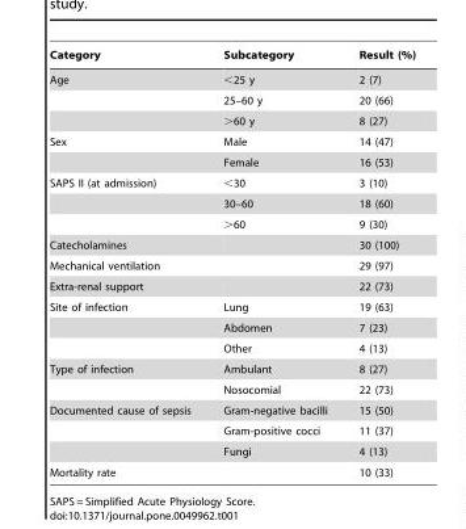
<table><thead><tr><td>Category</td><td>Subcategory</td><td>Result (%)</td></tr></thead><tbody><tr><td rowspan="3">Age</td><td>&lt;25 y</td><td>2 (7)</td></tr><tr><td>25–60 y</td><td>20 (66)</td></tr><tr><td>&gt;60 y</td><td>8 (27)</td></tr><tr><td rowspan="2">Sex</td><td>Male</td><td>14 (47)</td></tr><tr><td>Female</td><td>16 (53)</td></tr><tr><td rowspan="3">SAPS II (at admission)</td><td>&lt;30</td><td>3 (10)</td></tr><tr><td>30–60</td><td>18 (60)</td></tr><tr><td>&gt;60</td><td>9 (30)</td></tr><tr><td>Catecholamines</td><td></td><td>30 (100)</td></tr><tr><td>Mechanical ventilation</td><td></td><td>29 (97)</td></tr><tr><td>Extra-renal support</td><td></td><td>22 (73)</td></tr><tr><td rowspan="3">Site of infection</td><td>Lung</td><td>19 (63)</td></tr><tr><td>Abdomen</td><td>7 (23)</td></tr><tr><td>Other</td><td>4 (13)</td></tr><tr><td rowspan="2">Type of infection</td><td>Ambulant</td><td>8 (27)</td></tr><tr><td>Nosocomial</td><td>22 (73)</td></tr><tr><td rowspan="3">Documented cause of sepsis</td><td>Gram-negative bacilli</td><td>15 (50)</td></tr><tr><td>Gram-positive cocci</td><td>11 (37)</td></tr><tr><td>Fungi</td><td>4 (13)</td></tr><tr><td>Mortality rate</td><td></td><td>10 (33)</td></tr></tbody></table>